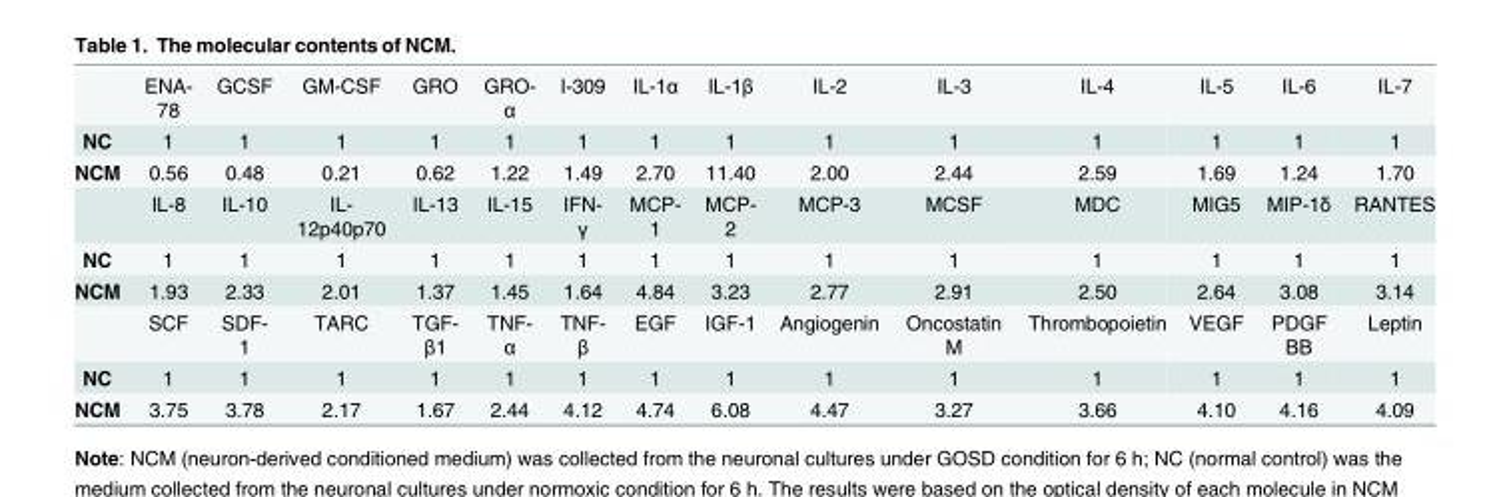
<table><thead><tr><td></td><td>ENA- 78</td><td>GCSF</td><td>GM-CSF</td><td>GRO</td><td>GRO- α</td><td>I-309</td><td>IL-1α</td><td>IL-1β</td><td>IL-2</td><td>IL-3</td><td>IL-4</td><td>IL-5</td><td>IL-6</td><td>IL-7</td></tr></thead><tbody><tr><td>NC</td><td>1</td><td>1</td><td>1</td><td>1</td><td>1</td><td>1</td><td>1</td><td>1</td><td>1</td><td>1</td><td>1</td><td>1</td><td>1</td><td>1</td></tr><tr><td rowspan="2">NCM</td><td>0.56</td><td>0.48</td><td>0.21</td><td>0.62</td><td>1.22</td><td>1.49</td><td>2.70</td><td>11.40</td><td>2.00</td><td>2.44</td><td>2.59</td><td>1.69</td><td>1.24</td><td>1.70</td></tr><tr><td>IL-8</td><td>IL-10</td><td>IL- 12p40p70</td><td>IL-13</td><td>IL-15</td><td>IFN- γ</td><td>MCP- 1</td><td>MCP- 2</td><td>MCP-3</td><td>MCSF</td><td>MDC</td><td>MIG5</td><td>MIP-1δ</td><td>RANTES</td></tr><tr><td>NC</td><td>1</td><td>1</td><td>1</td><td>1</td><td>1</td><td>1</td><td>1</td><td>1</td><td>1</td><td>1</td><td>1</td><td>1</td><td>1</td><td>1</td></tr><tr><td rowspan="2">NCM</td><td>1.93</td><td>2.33</td><td>2.01</td><td>1.37</td><td>1.45</td><td>1.64</td><td>4.84</td><td>3.23</td><td>2.77</td><td>2.91</td><td>2.50</td><td>2.64</td><td>3.08</td><td>3.14</td></tr><tr><td>SCF</td><td>SDF- 1</td><td>TARC</td><td>TGF- β1</td><td>TNF- α</td><td>TNF- β</td><td>EGF</td><td>IGF-1</td><td>Angiogenin</td><td>Oncostatin M</td><td>Thrombopoietin</td><td>VEGF</td><td>PDGF BB</td><td>Leptin</td></tr><tr><td>NC</td><td>1</td><td>1</td><td>1</td><td>1</td><td>1</td><td>1</td><td>1</td><td>1</td><td>1</td><td>1</td><td>1</td><td>1</td><td>1</td><td>1</td></tr><tr><td>NCM</td><td>3.75</td><td>3.78</td><td>2.17</td><td>1.67</td><td>2.44</td><td>4.12</td><td>4.74</td><td>6.08</td><td>4.47</td><td>3.27</td><td>3.66</td><td>4.10</td><td>4.16</td><td>4.09</td></tr></tbody></table>